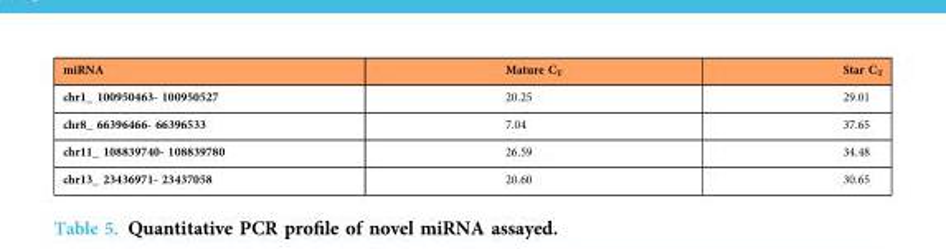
<table><thead><tr><td>miRNA</td><td>Mature C<sub>T</sub></td><td>Star C<sub>T</sub></td></tr></thead><tbody><tr><td>chr1_ 100950463- 100950527</td><td>20.25</td><td>29.01</td></tr><tr><td>chr8_ 66396466- 66396533</td><td>7.04</td><td>37.65</td></tr><tr><td>chr11_ 108839740- 108839780</td><td>26.59</td><td>34.48</td></tr><tr><td>chr13_ 23436971- 23437058</td><td>20.60</td><td>30.65</td></tr></tbody></table>